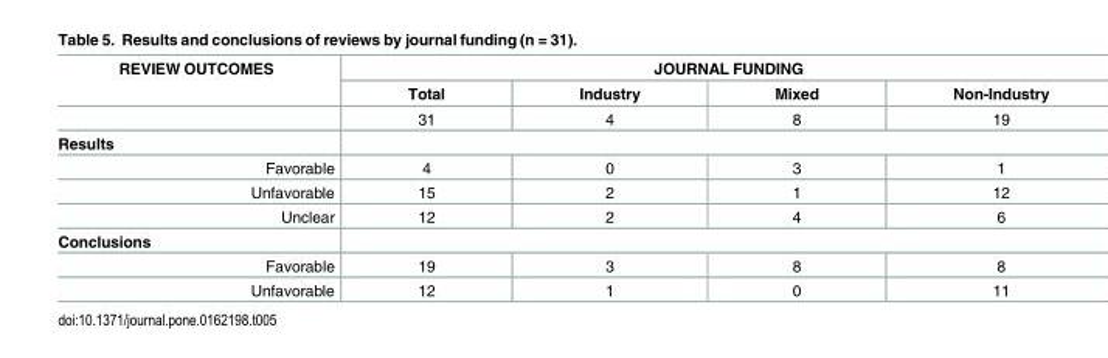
<table><thead><tr><td rowspan="2">REVIEW OUTCOMES</td><td colspan="4">JOURNAL FUNDING</td></tr><tr><td>Total</td><td>Industry</td><td>Mixed</td><td>Non-Industry</td></tr></thead><tbody><tr><td></td><td>31</td><td>4</td><td>8</td><td>19</td></tr><tr><td colspan="5">Results</td></tr><tr><td>Favorable</td><td>4</td><td>0</td><td>3</td><td>1</td></tr><tr><td>Unfavorable</td><td>15</td><td>2</td><td>1</td><td>12</td></tr><tr><td>Unclear</td><td>12</td><td>2</td><td>4</td><td>6</td></tr><tr><td colspan="5">Conclusions</td></tr><tr><td>Favorable</td><td>19</td><td>3</td><td>8</td><td>8</td></tr><tr><td>Unfavorable</td><td>12</td><td>1</td><td>0</td><td>11</td></tr></tbody></table>